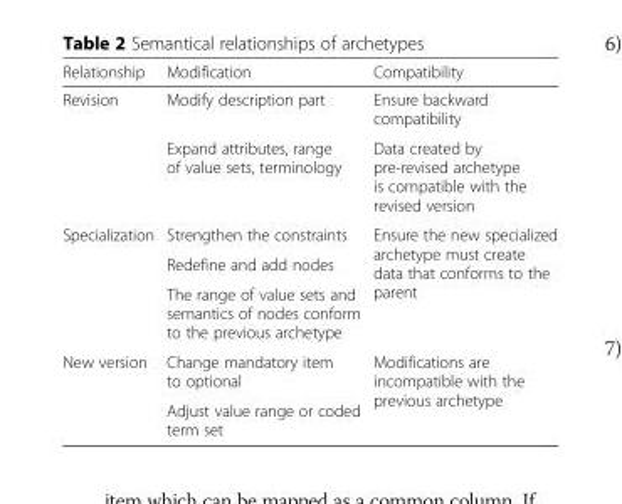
<table><thead><tr><td>Relationship</td><td>Modification</td><td>Compatibility</td></tr></thead><tbody><tr><td rowspan="2">Revision</td><td>Modify description part</td><td>Ensure backward compatibility</td></tr><tr><td>Expand attributes, range of value sets, terminology</td><td>Data created by pre-revised archetype is compatible with the revised version</td></tr><tr><td rowspan="3">Specialization</td><td>Strengthen the constraints</td><td rowspan="3">Ensure the new specialized archetype must create data that conforms to the parent</td></tr><tr><td>Redefine and add nodes</td></tr><tr><td>The range of value sets and semantics of nodes conform to the previous archetype</td></tr><tr><td rowspan="2">New version</td><td>Change mandatory item to optional</td><td rowspan="2">Modifications are incompatible with the previous archetype</td></tr><tr><td>Adjust value range or coded term set</td></tr></tbody></table>